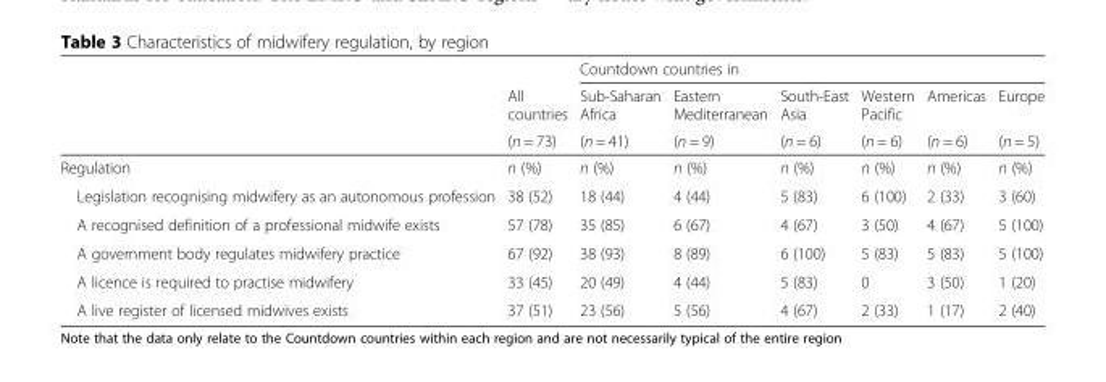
<table><thead><tr><td rowspan="3"></td><td rowspan="3">All countries (n = 73)</td><td colspan="6">Countdown countries in</td></tr><tr><td rowspan="2">Sub-Saharan Africa (n = 41)</td><td rowspan="2">Eastern Mediterranean (n = 9)</td><td rowspan="2">South-East Asia (n = 6)</td><td rowspan="2">Western Pacific (n = 6)</td><td rowspan="2">Americas (n = 6)</td><td rowspan="2">Europe (n = 5)</td></tr><tr></tr></thead><tbody><tr><td>Regulation</td><td>n (%)</td><td>n (%)</td><td>n (%)</td><td>n (%)</td><td>n (%)</td><td>n (%)</td><td>n (%)</td></tr><tr><td>Legislation recognising midwifery as an autonomous profession</td><td>38 (52)</td><td>18 (44)</td><td>4 (44)</td><td>5 (83)</td><td>6 (100)</td><td>2 (33)</td><td>3 (60)</td></tr><tr><td>A recognised definition of a professional midwife exists</td><td>57 (78)</td><td>35 (85)</td><td>6 (67)</td><td>4 (67)</td><td>3 (50)</td><td>4 (67)</td><td>5 (100)</td></tr><tr><td>A government body regulates midwifery practice</td><td>67 (92)</td><td>38 (93)</td><td>8 (89)</td><td>6 (100)</td><td>5 (83)</td><td>5 (83)</td><td>5 (100)</td></tr><tr><td>A licence is required to practise midwifery</td><td>33 (45)</td><td>20 (49)</td><td>4 (44)</td><td>5 (83)</td><td>0</td><td>3 (50)</td><td>1 (20)</td></tr><tr><td>A live register of licensed midwives exists</td><td>37 (51)</td><td>23 (56)</td><td>5 (56)</td><td>4 (67)</td><td>2 (33)</td><td>1 (17)</td><td>2 (40)</td></tr></tbody></table>